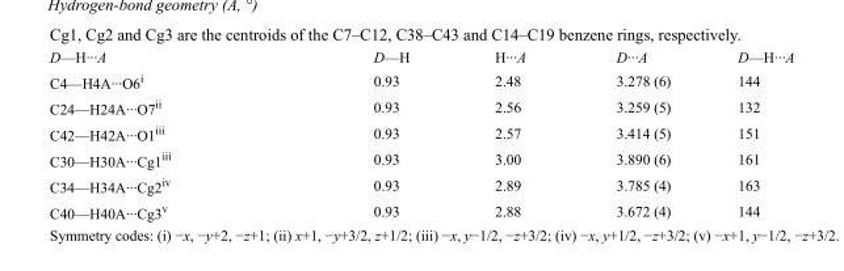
<table><tbody><tr><td>D—H···A</td><td>D—H</td><td>H···A</td><td>D···A</td><td>D—H···A</td></tr><tr><td>C4—H4A···O6<sup>i</sup></td><td>0.93</td><td>2.48</td><td>3.278 (6)</td><td>144</td></tr><tr><td>C24—H24A···O7<sup>ii</sup></td><td>0.93</td><td>2.56</td><td>3.259 (5)</td><td>132</td></tr><tr><td>C42—H42A···O1<sup>iii</sup></td><td>0.93</td><td>2.57</td><td>3.414 (5)</td><td>151</td></tr><tr><td>C30—H30A···Cg1<sup>iii</sup></td><td>0.93</td><td>3.00</td><td>3.890 (6)</td><td>161</td></tr><tr><td>C34—H34A···Cg2<sup>iv</sup></td><td>0.93</td><td>2.89</td><td>3.785 (4)</td><td>163</td></tr><tr><td>C40—H40A···Cg3<sup>v</sup></td><td>0.93</td><td>2.88</td><td>3.672 (4)</td><td>144</td></tr></tbody></table>